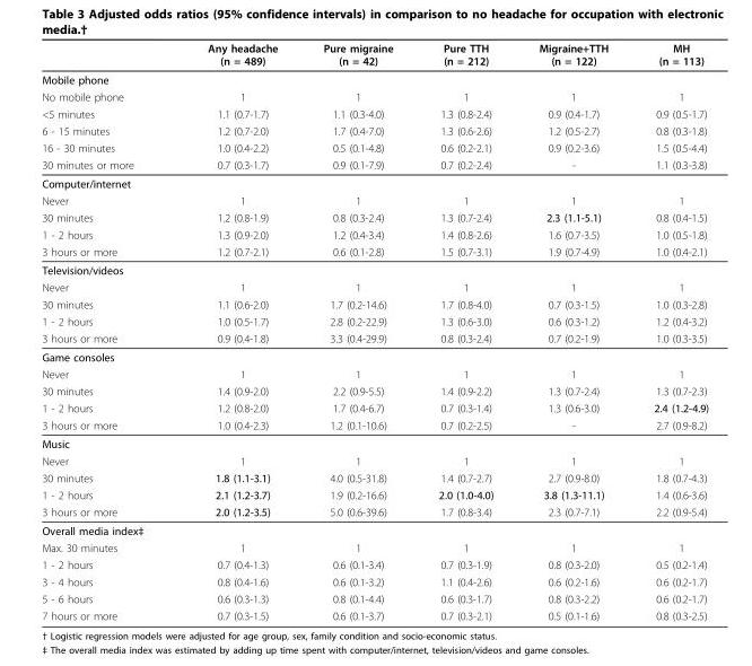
<table><thead><tr><td></td><td>Any headache (n = 489)</td><td>Pure migraine (n = 42)</td><td>Pure TTH (n = 212)</td><td>Migraine+TTH (n = 122)</td><td>MH (n = 113)</td></tr></thead><tbody><tr><td colspan="6">Mobile phone</td></tr><tr><td>No mobile phone</td><td>1</td><td>1</td><td>1</td><td>1</td><td>1</td></tr><tr><td>&lt;5 minutes</td><td>1.1 (0.7-1.7)</td><td>1.1 (0.3-4.0)</td><td>1.3 (0.8-2.4)</td><td>0.9 (0.4-1.7)</td><td>0.9 (0.5-1.7)</td></tr><tr><td>6 - 15 minutes</td><td>1.2 (0.7-2.0)</td><td>1.7 (0.4-7.0)</td><td>1.3 (0.6-2.6)</td><td>1.2 (0.5-2.7)</td><td>0.8 (0.3-1.8)</td></tr><tr><td>16 - 30 minutes</td><td>1.0 (0.4-2.2)</td><td>0.5 (0.1-4.8)</td><td>0.6 (0.2-2.1)</td><td>0.9 (0.2-3.6)</td><td>1.5 (0.5-4.4)</td></tr><tr><td>30 minutes or more</td><td>0.7 (0.3-1.7)</td><td>0.9 (0.1-7.9)</td><td>0.7 (0.2-2.4)</td><td>-</td><td>1.1 (0.3-3.8)</td></tr><tr><td colspan="6">Computer/internet</td></tr><tr><td>Never</td><td>1</td><td>1</td><td>1</td><td>1</td><td>1</td></tr><tr><td>30 minutes</td><td>1.2 (0.8-1.9)</td><td>0.8 (0.3-2.4)</td><td>1.3 (0.7-2.4)</td><td>2.3 (1.1-5.1)</td><td>0.8 (0.4-1.5)</td></tr><tr><td>1 - 2 hours</td><td>1.3 (0.9-2.0)</td><td>1.2 (0.4-3.4)</td><td>1.4 (0.8-2.6)</td><td>1.6 (0.7-3.5)</td><td>1.0 (0.5-1.8)</td></tr><tr><td>3 hours or more</td><td>1.2 (0.7-2.1)</td><td>0.6 (0.1-2.8)</td><td>1.5 (0.7-3.1)</td><td>1.9 (0.7-4.9)</td><td>1.0 (0.4-2.1)</td></tr><tr><td colspan="6">Television/videos</td></tr><tr><td>Never</td><td>1</td><td>1</td><td>1</td><td>1</td><td>1</td></tr><tr><td>30 minutes</td><td>1.1 (0.6-2.0)</td><td>1.7 (0.2-14.6)</td><td>1.7 (0.8-4.0)</td><td>0.7 (0.3-1.5)</td><td>1.0 (0.3-2.8)</td></tr><tr><td>1 - 2 hours</td><td>1.0 (0.5-1.7)</td><td>2.8 (0.2-22.9)</td><td>1.3 (0.6-3.0)</td><td>0.6 (0.3-1.2)</td><td>1.2 (0.4-3.2)</td></tr><tr><td>3 hours or more</td><td>0.9 (0.4-1.8)</td><td>3.3 (0.4-29.9)</td><td>0.8 (0.3-2.4)</td><td>0.7 (0.2-1.9)</td><td>1.0 (0.3-3.5)</td></tr><tr><td colspan="6">Game consoles</td></tr><tr><td>Never</td><td>1</td><td>1</td><td>1</td><td>1</td><td>1</td></tr><tr><td>30 minutes</td><td>1.4 (0.9-2.0)</td><td>2.2 (0.9-5.5)</td><td>1.4 (0.9-2.2)</td><td>1.3 (0.7-2.4)</td><td>1.3 (0.7-2.3)</td></tr><tr><td>1 - 2 hours</td><td>1.2 (0.8-2.0)</td><td>1.7 (0.4-6.7)</td><td>0.7 (0.3-1.4)</td><td>1.3 (0.6-3.0)</td><td>2.4 (1.2-4.9)</td></tr><tr><td>3 hours or more</td><td>1.0 (0.4-2.3)</td><td>1.2 (0.1-10.6)</td><td>0.7 (0.2-2.5)</td><td>-</td><td>2.7 (0.9-8.2)</td></tr><tr><td colspan="6">Music</td></tr><tr><td>Never</td><td>1</td><td>1</td><td>1</td><td>1</td><td>1</td></tr><tr><td>30 minutes</td><td>1.8 (1.1-3.1)</td><td>4.0 (0.5-31.8)</td><td>1.4 (0.7-2.7)</td><td>2.7 (0.9-8.0)</td><td>1.8 (0.7-4.3)</td></tr><tr><td>1 - 2 hours</td><td>2.1 (1.2-3.7)</td><td>1.9 (0.2-16.6)</td><td>2.0 (1.0-4.0)</td><td>3.8 (1.3-11.1)</td><td>1.4 (0.6-3.6)</td></tr><tr><td>3 hours or more</td><td>2.0 (1.2-3.5)</td><td>5.0 (0.6-39.6)</td><td>1.7 (0.8-3.4)</td><td>2.3 (0.7-7.1)</td><td>2.2 (0.9-5.4)</td></tr><tr><td colspan="6">Overall media index‡</td></tr><tr><td>Max. 30 minutes</td><td>1</td><td>1</td><td>1</td><td>1</td><td>1</td></tr><tr><td>1 - 2 hours</td><td>0.7 (0.4-1.3)</td><td>0.6 (0.1-3.4)</td><td>0.7 (0.3-1.9)</td><td>0.8 (0.3-2.0)</td><td>0.5 (0.2-1.4)</td></tr><tr><td>3 - 4 hours</td><td>0.8 (0.4-1.6)</td><td>0.6 (0.1-3.2)</td><td>1.1 (0.4-2.6)</td><td>0.6 (0.2-1.6)</td><td>0.6 (0.2-1.7)</td></tr><tr><td>5 - 6 hours</td><td>0.6 (0.3-1.3)</td><td>0.8 (0.1-4.4)</td><td>0.6 (0.3-1.7)</td><td>0.8 (0.3-2.2)</td><td>0.6 (0.2-1.7)</td></tr><tr><td>7 hours or more</td><td>0.7 (0.3-1.5)</td><td>0.6 (0.1-3.7)</td><td>0.7 (0.3-2.1)</td><td>0.5 (0.1-1.6)</td><td>0.8 (0.3-2.5)</td></tr></tbody></table>